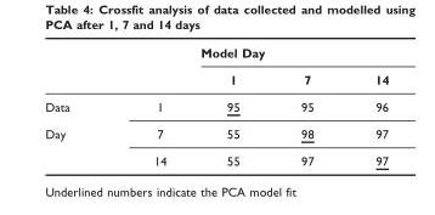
<table><thead><tr><td rowspan="2"></td><td rowspan="2"></td><td colspan="3">Model Day</td></tr><tr><td>1</td><td>7</td><td>14</td></tr></thead><tbody><tr><td>Data</td><td>1</td><td>95</td><td>95</td><td>96</td></tr><tr><td rowspan="2">Day</td><td>7</td><td>55</td><td>98</td><td>97</td></tr><tr><td>14</td><td>55</td><td>97</td><td>97</td></tr></tbody></table>